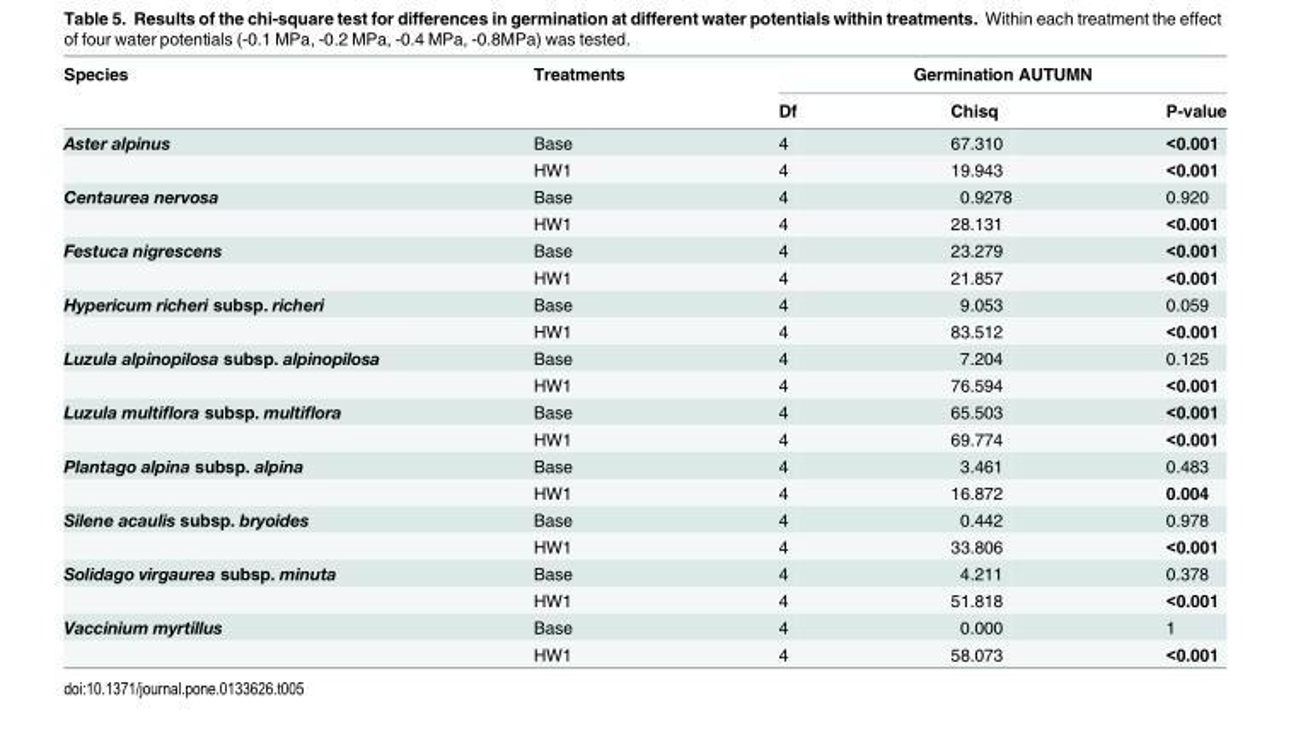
<table><thead><tr><td rowspan="2">Species</td><td rowspan="2">Treatments</td><td colspan="3">Germination AUTUMN</td></tr><tr><td>Df</td><td>Chisq</td><td>P-value</td></tr></thead><tbody><tr><td rowspan="2">Aster alpinus</td><td>Base</td><td>4</td><td>67.310</td><td>&lt;0.001</td></tr><tr><td>HW1</td><td>4</td><td>19.943</td><td>&lt;0.001</td></tr><tr><td rowspan="2">Centaurea nervosa</td><td>Base</td><td>4</td><td>0.9278</td><td>0.920</td></tr><tr><td>HW1</td><td>4</td><td>28.131</td><td>&lt;0.001</td></tr><tr><td rowspan="2">Festuca nigrescens</td><td>Base</td><td>4</td><td>23.279</td><td>&lt;0.001</td></tr><tr><td>HW1</td><td>4</td><td>21.857</td><td>&lt;0.001</td></tr><tr><td rowspan="2">Hypericum richeri subsp. richeri</td><td>Base</td><td>4</td><td>9.053</td><td>0.059</td></tr><tr><td>HW1</td><td>4</td><td>83.512</td><td>&lt;0.001</td></tr><tr><td rowspan="2">Luzula alpinopilosa subsp. alpinopilosa</td><td>Base</td><td>4</td><td>7.204</td><td>0.125</td></tr><tr><td>HW1</td><td>4</td><td>76.594</td><td>&lt;0.001</td></tr><tr><td rowspan="2">Luzula multiflora subsp. multiflora</td><td>Base</td><td>4</td><td>65.503</td><td>&lt;0.001</td></tr><tr><td>HW1</td><td>4</td><td>69.774</td><td>&lt;0.001</td></tr><tr><td rowspan="2">Plantago alpina subsp. alpina</td><td>Base</td><td>4</td><td>3.461</td><td>0.483</td></tr><tr><td>HW1</td><td>4</td><td>16.872</td><td>0.004</td></tr><tr><td rowspan="2">Silene acaulis subsp. bryoides</td><td>Base</td><td>4</td><td>0.442</td><td>0.978</td></tr><tr><td>HW1</td><td>4</td><td>33.806</td><td>&lt;0.001</td></tr><tr><td rowspan="2">Solidago virgaurea subsp. minuta</td><td>Base</td><td>4</td><td>4.211</td><td>0.378</td></tr><tr><td>HW1</td><td>4</td><td>51.818</td><td>&lt;0.001</td></tr><tr><td rowspan="2">Vaccinium myrtillus</td><td>Base</td><td>4</td><td>0.000</td><td>1</td></tr><tr><td>HW1</td><td>4</td><td>58.073</td><td>&lt;0.001</td></tr></tbody></table>